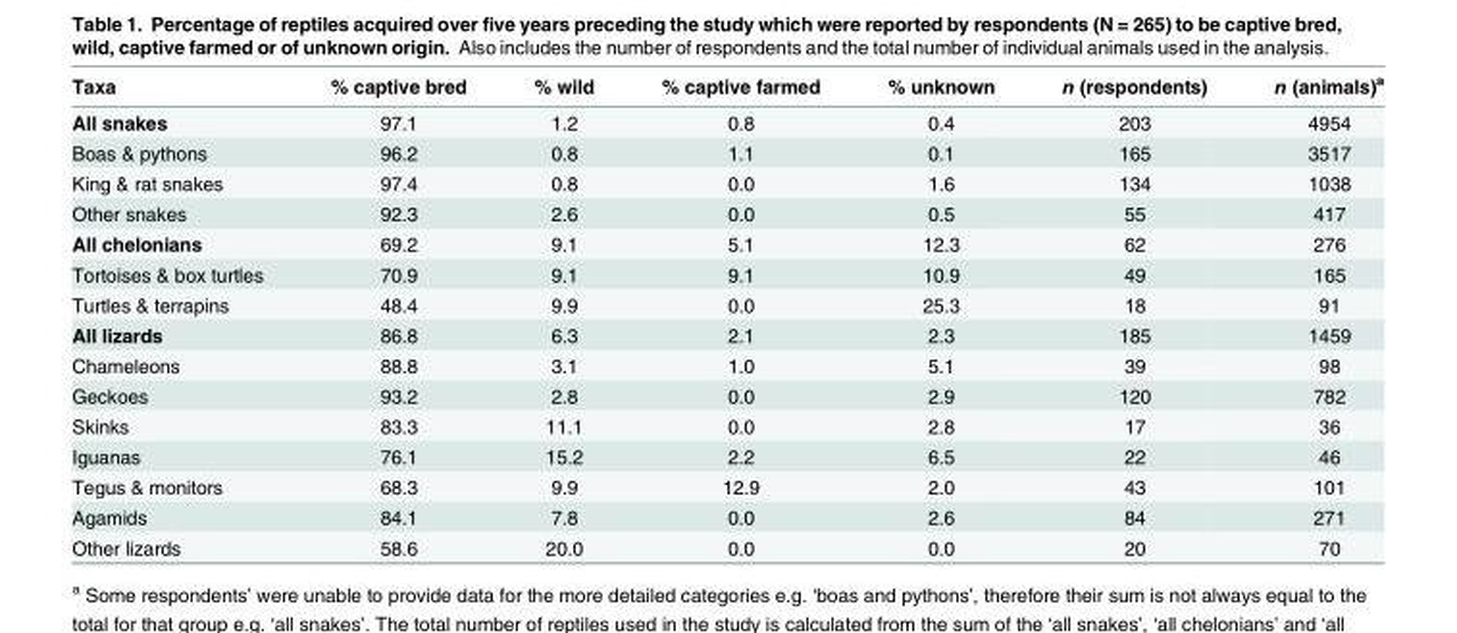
<table><thead><tr><td>Taxa</td><td>% captive bred</td><td>% wild</td><td>% captive farmed</td><td>% unknown</td><td>n (respondents)</td><td>n (animals)<sup>a</sup></td></tr></thead><tbody><tr><td>All snakes</td><td>97.1</td><td>1.2</td><td>0.8</td><td>0.4</td><td>203</td><td>4954</td></tr><tr><td>Boas &amp; pythons</td><td>96.2</td><td>0.8</td><td>1.1</td><td>0.1</td><td>165</td><td>3517</td></tr><tr><td>King &amp; rat snakes</td><td>97.4</td><td>0.8</td><td>0.0</td><td>1.6</td><td>134</td><td>1038</td></tr><tr><td>Other snakes</td><td>92.3</td><td>2.6</td><td>0.0</td><td>0.5</td><td>55</td><td>417</td></tr><tr><td>All chelonians</td><td>69.2</td><td>9.1</td><td>5.1</td><td>12.3</td><td>62</td><td>276</td></tr><tr><td>Tortoises &amp; box turtles</td><td>70.9</td><td>9.1</td><td>9.1</td><td>10.9</td><td>49</td><td>165</td></tr><tr><td>Turtles &amp; terrapins</td><td>48.4</td><td>9.9</td><td>0.0</td><td>25.3</td><td>18</td><td>91</td></tr><tr><td>All lizards</td><td>86.8</td><td>6.3</td><td>2.1</td><td>2.3</td><td>185</td><td>1459</td></tr><tr><td>Chameleons</td><td>88.8</td><td>3.1</td><td>1.0</td><td>5.1</td><td>39</td><td>98</td></tr><tr><td>Geckoes</td><td>93.2</td><td>2.8</td><td>0.0</td><td>2.9</td><td>120</td><td>782</td></tr><tr><td>Skinks</td><td>83.3</td><td>11.1</td><td>0.0</td><td>2.8</td><td>17</td><td>36</td></tr><tr><td>Iguanas</td><td>76.1</td><td>15.2</td><td>2.2</td><td>6.5</td><td>22</td><td>46</td></tr><tr><td>Tegus &amp; monitors</td><td>68.3</td><td>9.9</td><td>12.9</td><td>2.0</td><td>43</td><td>101</td></tr><tr><td>Agamids</td><td>84.1</td><td>7.8</td><td>0.0</td><td>2.6</td><td>84</td><td>271</td></tr><tr><td>Other lizards</td><td>58.6</td><td>20.0</td><td>0.0</td><td>0.0</td><td>20</td><td>70</td></tr></tbody></table>